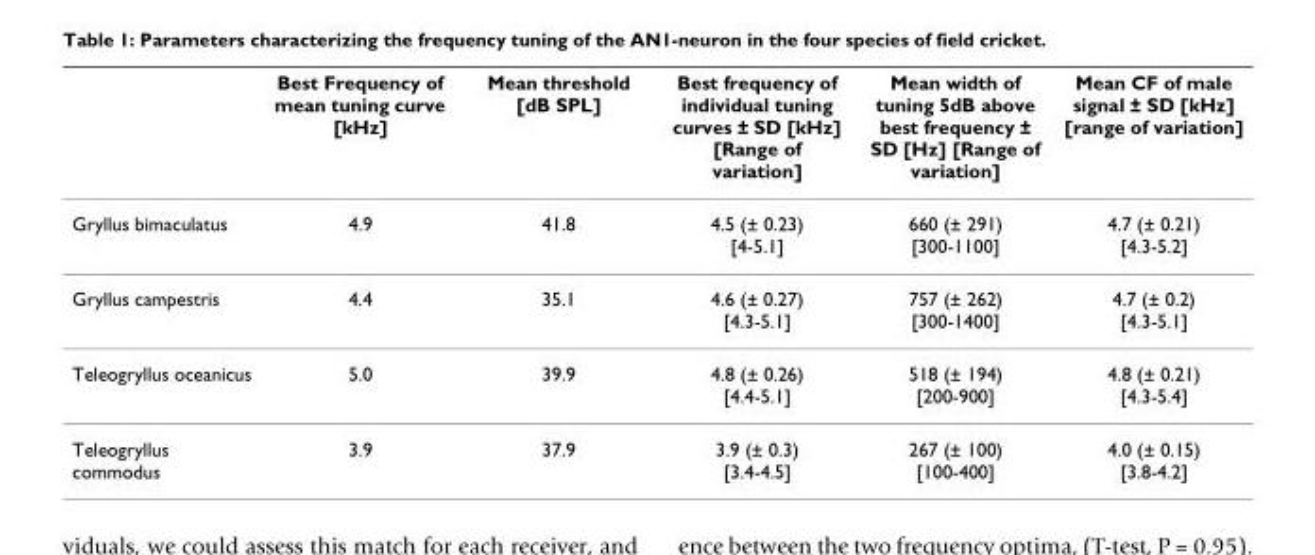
<table><thead><tr><td></td><td>Best Frequency of mean tuning curve [kHz]</td><td>Mean threshold [dB SPL]</td><td>Best frequency of individual tuning curves ± SD [kHz] [Range of variation]</td><td>Mean width of tuning 5dB above best frequency ± SD [Hz] [Range of variation]</td><td>Mean CF of male signal ± SD [kHz] [range of variation]</td></tr></thead><tbody><tr><td>Gryllus bimaculatus</td><td>4.9</td><td>41.8</td><td>4.5 (± 0.23) [4-5.1]</td><td>660 (± 291) [300-1100]</td><td>4.7 (± 0.21) [4.3-5.2]</td></tr><tr><td>Gryllus campestris</td><td>4.4</td><td>35.1</td><td>4.6 (± 0.27) [4.3-5.1]</td><td>757 (± 262) [300-1400]</td><td>4.7 (± 0.2) [4.3-5.1]</td></tr><tr><td>Teleogryllus oceanicus</td><td>5.0</td><td>39.9</td><td>4.8 (± 0.26) [4.4-5.1]</td><td>518 (± 194) [200-900]</td><td>4.8 (± 0.21) [4.3-5.4]</td></tr><tr><td>Teleogryllus commodus</td><td>3.9</td><td>37.9</td><td>3.9 (± 0.3) [3.4-4.5]</td><td>267 (± 100) [100-400]</td><td>4.0 (± 0.15) [3.8-4.2]</td></tr></tbody></table>